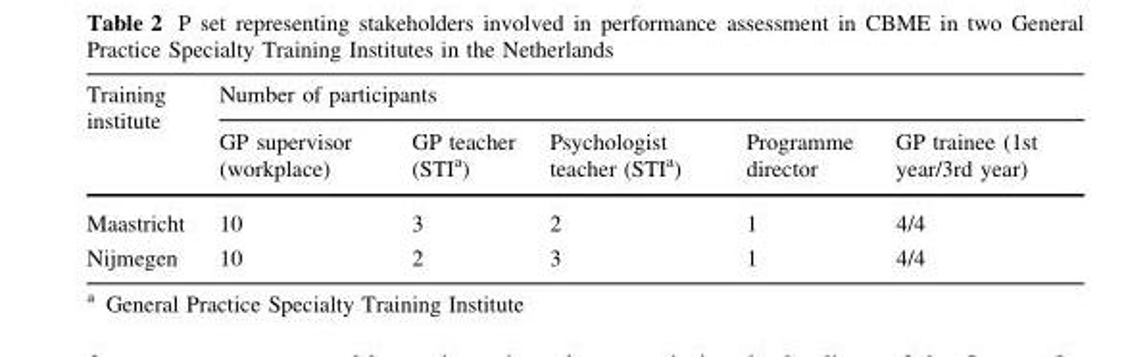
<table><thead><tr><td rowspan="2">Training institute</td><td colspan="5">Number of participants</td></tr><tr><td>GP supervisor (workplace)</td><td>GP teacher (STI<sup>a</sup>)</td><td>Psychologist teacher (STI<sup>a</sup>)</td><td>Programme director</td><td>GP trainee (1st year/3rd year)</td></tr></thead><tbody><tr><td>Maastricht</td><td>10</td><td>3</td><td>2</td><td>1</td><td>4/4</td></tr><tr><td>Nijmegen</td><td>10</td><td>2</td><td>3</td><td>1</td><td>4/4</td></tr></tbody></table>